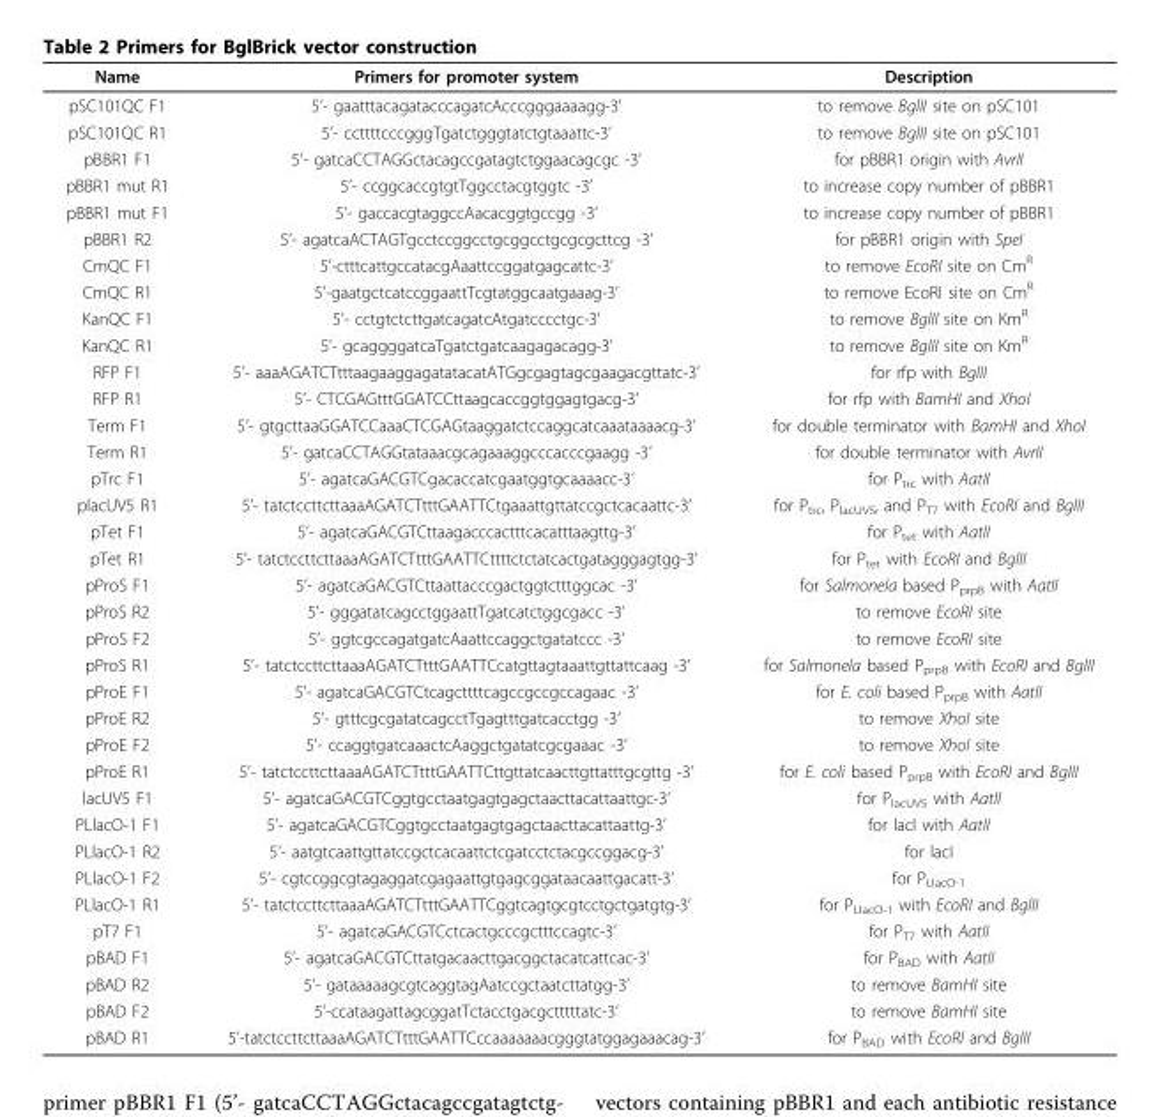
<table><thead><tr><td>Name</td><td>Primers for promoter system</td><td>Description</td></tr></thead><tbody><tr><td>pSC101QC F1</td><td>5’- gaatttacagatacccagatcAcccgggaaaagg-3’</td><td>to remove BglII site on pSC101</td></tr><tr><td>pSC101QC R1</td><td>5’- ccttttcccgggTgatctgggtatctgtaaattc-3’</td><td>to remove BglII site on pSC101</td></tr><tr><td>pBBR1 F1</td><td>5’- gatcaCCTAGGctacagccgatagtctggaacagcgc -3’</td><td>for pBBR1 origin with AvrII</td></tr><tr><td>pBBR1 mut R1</td><td>5’- ccggcaccgtgtTggcctacgtggtc -3’</td><td>to increase copy number of pBBR1</td></tr><tr><td>pBBR1 mut F1</td><td>5’- gaccacgtaggccAacacggtgccgg -3’</td><td>to increase copy number of pBBR1</td></tr><tr><td>pBBR1 R2</td><td>5’- agatcaACTAGTgcctccggcctgcggcctgcgcgcttcg -3’</td><td>for pBBR1 origin with SpeI</td></tr><tr><td>CmQC F1</td><td>5’-ctttcattgccatacgAaattccggatgagcattc-3’</td><td>to remove EcoRI site on Cm<sup>R</sup></td></tr><tr><td>CmQC R1</td><td>5’-gaatgctcatccggaattTcgtatggcaatgaaag-3’</td><td>to remove EcoRI site on Cm<sup>R</sup></td></tr><tr><td>KanQC F1</td><td>5’- cctgtctcttgatcagatcAtgatcccctgc-3’</td><td>to remove BglII site on Km<sup>R</sup></td></tr><tr><td>KanQC R1</td><td>5’- gcaggggatcaTgatctgatcaagagacagg-3’</td><td>to remove BglII site on Km<sup>R</sup></td></tr><tr><td>RFP F1</td><td>5’- aaaAGATCTtttaagaaggagatatacatATGgcgagtagcgaagacgttatc-3’</td><td>for rfp with BglII</td></tr><tr><td>RFP R1</td><td>5’- CTCGAGtttGGATCCttaagcaccggtggagtgacg-3’</td><td>for rfp with BamHI and XhoI</td></tr><tr><td>Term F1</td><td>5’- gtgcttaaGGATCCaaaCTCGAGtaaggatctccaggcatcaaataaaacg-3’</td><td>for double terminator with BamHI and XhoI</td></tr><tr><td>Term R1</td><td>5’- gatcaCCTAGGtataaacgcagaaaggcccacccgaagg -3’</td><td>for double terminator with AvrII</td></tr><tr><td>pTrc F1</td><td>5’- agatcaGACGTCgacaccatcgaatggtgcaaaacc-3’</td><td>for P<sub>trc</sub> with AatII</td></tr><tr><td>placUV5 R1</td><td>5’- tatctccttcttaaaAGATCTtttGAATTCtgaaattgttatccgctcacaattc-3’</td><td>for P<sub>trc</sub>, P<sub>lacUV5</sub>, and P<sub>T7</sub> with EcoRI and BglII</td></tr><tr><td>pTet F1</td><td>5’- agatcaGACGTCttaagacccactttcacatttaagttg-3’</td><td>for P<sub>tet</sub> with AatII</td></tr><tr><td>pTet R1</td><td>5’- tatctccttcttaaaAGATCTtttGAATTCttttctctatcactgatagggagtgg-3’</td><td>for P<sub>tet</sub> with EcoRI and BglII</td></tr><tr><td>pProS F1</td><td>5’- agatcaGACGTCttaattacccgactggtctttggcac -3’</td><td>for Salmonela based P<sub>prpB</sub> with AatII</td></tr><tr><td>pProS R2</td><td>5’- gggatatcagcctggaattTgatcatctggcgacc -3’</td><td>to remove EcoRI site</td></tr><tr><td>pProS F2</td><td>5’- ggtcgccagatgatcAaattccaggctgatatccc -3’</td><td>to remove EcoRI site</td></tr><tr><td>pProS R1</td><td>5’- tatctccttcttaaaAGATCTtttGAATTCcatgttagtaaattgttattcaag -3’</td><td>for Salmonela based P<sub>prpB</sub> with EcoRI and BglII</td></tr><tr><td>pProE F1</td><td>5’- agatcaGACGTCtcagcttttcagccgccgccagaac -3’</td><td>for E. coli based P<sub>prpB</sub> with AatII</td></tr><tr><td>pProE R2</td><td>5’- gtttcgcgatatcagcctTgagtttgatcacctgg -3’</td><td>to remove XhoI site</td></tr><tr><td>pProE F2</td><td>5’- ccaggtgatcaaactcAaggctgatatcgcgaaac -3’</td><td>to remove XhoI site</td></tr><tr><td>pProE R1</td><td>5’- tatctccttcttaaaAGATCTtttGAATTCttgttatcaacttgttatttgcgttg -3’</td><td>for E. coli based P<sub>prpB</sub> with EcoRI and BglII</td></tr><tr><td>lacUV5 F1</td><td>5’- agatcaGACGTCggtgcctaatgagtgagctaacttacattaattgc-3’</td><td>for P<sub>lacUV5</sub> with AatII</td></tr><tr><td>PLlacO-1 F1</td><td>5’- agatcaGACGTCggtgcctaatgagtgagctaacttacattaattg-3’</td><td>for lacI with AatII</td></tr><tr><td>PLlacO-1 R2</td><td>5’- aatgtcaattgttatccgctcacaattctcgatcctctacgccggacg-3’</td><td>for lacI</td></tr><tr><td>PLlacO-1 F2</td><td>5’- cgtccggcgtagaggatcgagaattgtgagcggataacaattgacatt-3’</td><td>for P<sub>LlacO-1</sub></td></tr><tr><td>PLlacO-1 R1</td><td>5’- tatctccttcttaaaAGATCTtttGAATTCggtcagtgcgtcctgctgatgtg-3’</td><td>for P<sub>LlacO-1</sub> with EcoRI and BglII</td></tr><tr><td>pT7 F1</td><td>5’- agatcaGACGTCctcactgcccgctttccagtc-3’</td><td>for P<sub>T7</sub> with AatII</td></tr><tr><td>pBAD F1</td><td>5’- agatcaGACGTCttatgacaacttgacggctacatcattcac-3’</td><td>for P<sub>BAD</sub> with AatII</td></tr><tr><td>pBAD R2</td><td>5’- gataaaaagcgtcaggtagAatccgctaatcttatgg-3’</td><td>to remove BamHI site</td></tr><tr><td>pBAD F2</td><td>5’-ccataagattagcggatTctacctgacgctttttatc-3’</td><td>to remove BamHI site</td></tr><tr><td>pBAD R1</td><td>5’-tatctccttcttaaaAGATCTtttGAATTCccaaaaaaacgggtatggagaaacag-3’</td><td>for P<sub>BAD</sub> with EcoRI and BglII</td></tr></tbody></table>